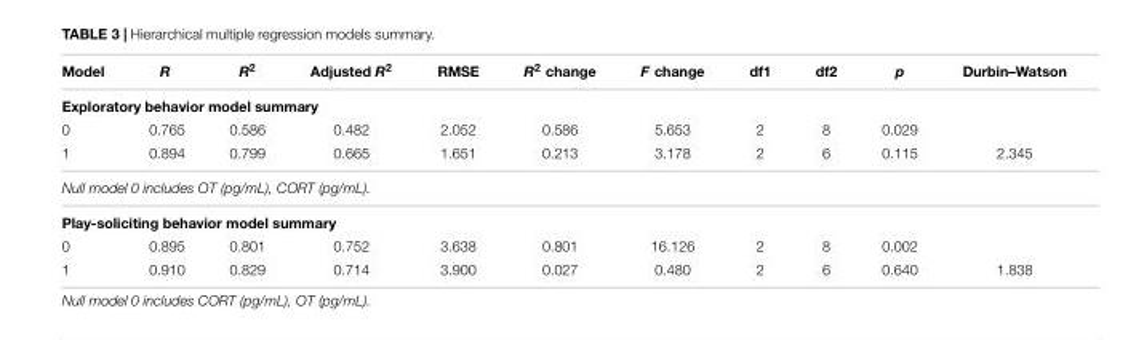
<table><thead><tr><td>Model</td><td>R</td><td>R<sup>2</sup></td><td>Adjusted R<sup>2</sup></td><td>RMSE</td><td>R<sup>2</sup> change</td><td>F change</td><td>df1</td><td>df2</td><td>p</td><td>Durbin–Watson</td></tr></thead><tbody><tr><td colspan="11">Exploratory behavior model summary</td></tr><tr><td>0</td><td>0.765</td><td>0.586</td><td>0.482</td><td>2.052</td><td>0.586</td><td>5.653</td><td>2</td><td>8</td><td>0.029</td><td></td></tr><tr><td>1</td><td>0.894</td><td>0.799</td><td>0.665</td><td>1.651</td><td>0.213</td><td>3.178</td><td>2</td><td>6</td><td>0.115</td><td>2.345</td></tr><tr><td colspan="11">Null model 0 includes OT (pg/mL), CORT (pg/mL).</td></tr><tr><td colspan="11">Play-soliciting behavior model summary</td></tr><tr><td>0</td><td>0.895</td><td>0.801</td><td>0.752</td><td>3.638</td><td>0.801</td><td>16.126</td><td>2</td><td>8</td><td>0.002</td><td></td></tr><tr><td>1</td><td>0.910</td><td>0.829</td><td>0.714</td><td>3.900</td><td>0.027</td><td>0.480</td><td>2</td><td>6</td><td>0.640</td><td>1.838</td></tr></tbody></table>